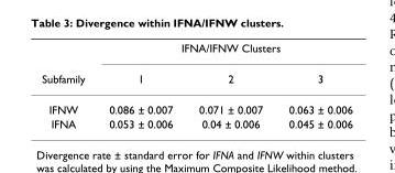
<table><thead><tr><td rowspan="2">Subfamily</td><td colspan="3">IFNA/IFNW Clusters</td></tr><tr><td>1</td><td>2</td><td>3</td></tr></thead><tbody><tr><td>IFNW</td><td>0.086 ± 0.007</td><td>0.071 ± 0.007</td><td>0.063 ± 0.006</td></tr><tr><td>IFNA</td><td>0.053 ± 0.006</td><td>0.04 ± 0.006</td><td>0.045 ± 0.006</td></tr></tbody></table>